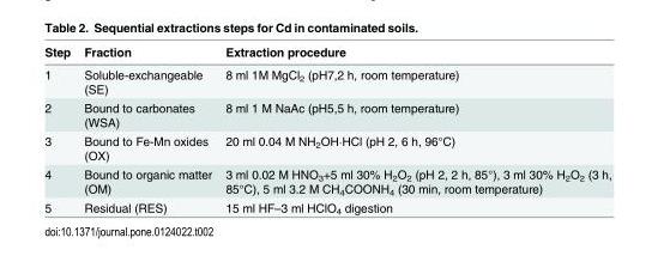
<table><thead><tr><td>Step</td><td>Fraction</td><td>Extraction procedure</td></tr></thead><tbody><tr><td>1</td><td>Soluble-exchangeable (SE)</td><td>8 ml 1M MgCl<sub>2</sub> (pH7,2 h, room temperature)</td></tr><tr><td>2</td><td>Bound to carbonates (WSA)</td><td>8 ml 1 M NaAc (pH5,5 h, room temperature)</td></tr><tr><td>3</td><td>Bound to Fe-Mn oxides (OX)</td><td>20 ml 0.04 M NH<sub>2</sub>OH·HCl (pH 2, 6 h, 96°C)</td></tr><tr><td>4</td><td>Bound to organic matter (OM)</td><td>3 ml 0.02 M HNO<sub>3</sub>+5 ml 30% H<sub>2</sub>O<sub>2</sub> (pH 2, 2 h, 85°), 3 ml 30% H<sub>2</sub>O<sub>2</sub> (3 h, 85°C), 5 ml 3.2 M CH<sub>4</sub>COONH<sub>4</sub> (30 min, room temperature)</td></tr><tr><td>5</td><td>Residual (RES)</td><td>15 ml HF–3 ml HClO<sub>4</sub> digestion</td></tr></tbody></table>